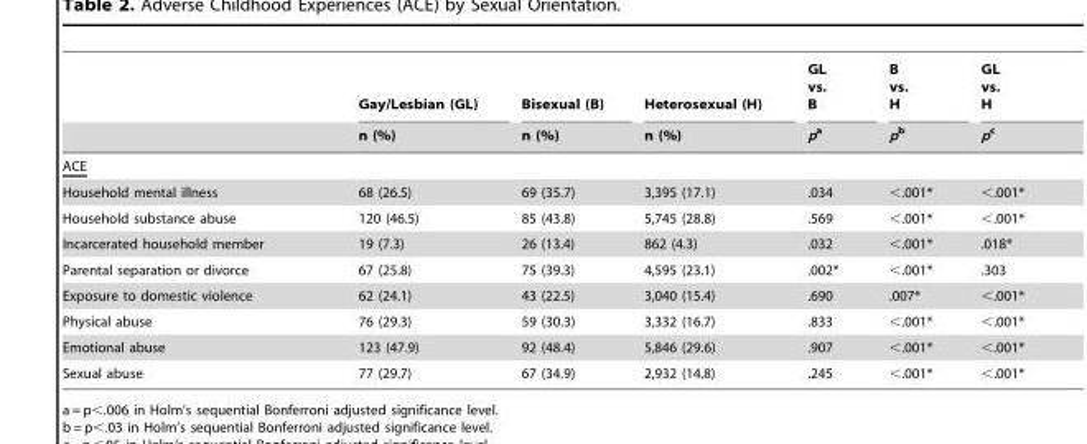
<table><thead><tr><td rowspan="2"></td><td rowspan="2">Gay/Lesbian (GL) n (%)</td><td rowspan="2">Bisexual (B) n (%)</td><td rowspan="2">Heterosexual (H) n (%)</td><td rowspan="2">GL vs. B p<sup>a</sup></td><td rowspan="2">B vs. H p<sup>b</sup></td><td rowspan="2">GL vs. H p<sup>c</sup></td></tr><tr></tr></thead><tbody><tr><td colspan="7">ACE</td></tr><tr><td>Household mental illness</td><td>68 (26.5)</td><td>69 (35.7)</td><td>3,395 (17.1)</td><td>.034</td><td>&lt;.001*</td><td>&lt;.001*</td></tr><tr><td>Household substance abuse</td><td>120 (46.5)</td><td>85 (43.8)</td><td>5,745 (28.8)</td><td>.569</td><td>&lt;.001*</td><td>&lt;.001*</td></tr><tr><td>Incarcerated household member</td><td>19 (7.3)</td><td>26 (13.4)</td><td>862 (4.3)</td><td>.032</td><td>&lt;.001*</td><td>.018*</td></tr><tr><td>Parental separation or divorce</td><td>67 (25.8)</td><td>75 (39.3)</td><td>4,595 (23.1)</td><td>.002*</td><td>&lt;.001*</td><td>.303</td></tr><tr><td>Exposure to domestic violence</td><td>62 (24.1)</td><td>43 (22.5)</td><td>3,040 (15.4)</td><td>.690</td><td>.007*</td><td>&lt;.001*</td></tr><tr><td>Physical abuse</td><td>76 (29.3)</td><td>59 (30.3)</td><td>3,332 (16.7)</td><td>.833</td><td>&lt;.001*</td><td>&lt;.001*</td></tr><tr><td>Emotional abuse</td><td>123 (47.9)</td><td>92 (48.4)</td><td>5,846 (29.6)</td><td>.907</td><td>&lt;.001*</td><td>&lt;.001*</td></tr><tr><td>Sexual abuse</td><td>77 (29.7)</td><td>67 (34.9)</td><td>2,932 (14.8)</td><td>.245</td><td>&lt;.001*</td><td>&lt;.001*</td></tr></tbody></table>